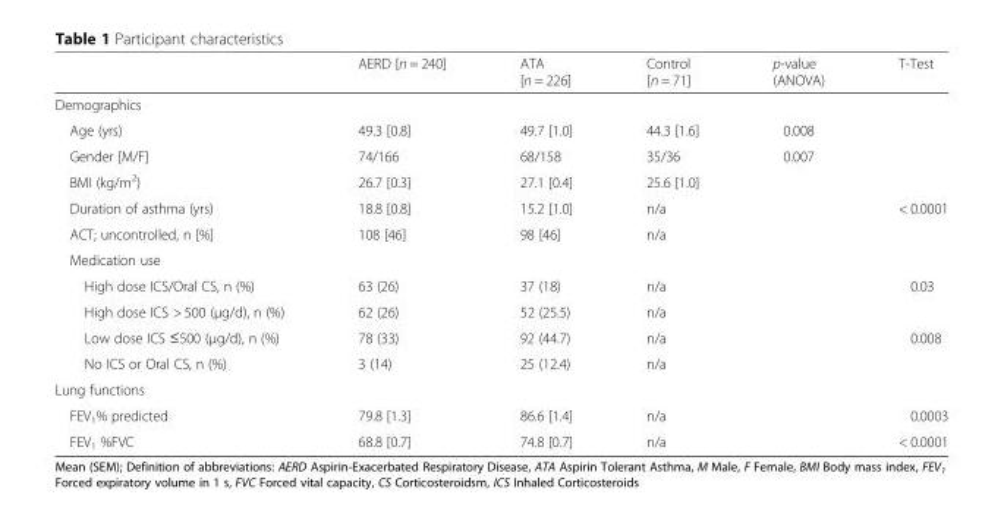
<table><thead><tr><td></td><td>AERD [n = 240]</td><td>ATA [n = 226]</td><td>Control [n = 71]</td><td>p-value (ANOVA)</td><td>T-Test</td></tr></thead><tbody><tr><td colspan="6">Demographics</td></tr><tr><td>Age (yrs)</td><td>49.3 [0.8]</td><td>49.7 [1.0]</td><td>44.3 [1.6]</td><td>0.008</td><td></td></tr><tr><td>Gender [M/F]</td><td>74/166</td><td>68/158</td><td>35/36</td><td>0.007</td><td></td></tr><tr><td>BMI (kg/m<sup>2</sup>)</td><td>26.7 [0.3]</td><td>27.1 [0.4]</td><td>25.6 [1.0]</td><td></td><td></td></tr><tr><td>Duration of asthma (yrs)</td><td>18.8 [0.8]</td><td>15.2 [1.0]</td><td>n/a</td><td></td><td>&lt; 0.0001</td></tr><tr><td>ACT; uncontrolled, n [%]</td><td>108 [46]</td><td>98 [46]</td><td>n/a</td><td></td><td></td></tr><tr><td colspan="6">Medication use</td></tr><tr><td>High dose ICS/Oral CS, n (%)</td><td>63 (26)</td><td>37 (18)</td><td>n/a</td><td></td><td>0.03</td></tr><tr><td>High dose ICS &gt; 500 (μg/d), n (%)</td><td>62 (26)</td><td>52 (25.5)</td><td>n/a</td><td></td><td></td></tr><tr><td>Low dose ICS ≤500 (μg/d), n (%)</td><td>78 (33)</td><td>92 (44.7)</td><td>n/a</td><td></td><td>0.008</td></tr><tr><td>No ICS or Oral CS, n (%)</td><td>3 (14)</td><td>25 (12.4)</td><td>n/a</td><td></td><td></td></tr><tr><td colspan="6">Lung functions</td></tr><tr><td>FEV<sub>1</sub>% predicted</td><td>79.8 [1.3]</td><td>86.6 [1.4]</td><td>n/a</td><td></td><td>0.0003</td></tr><tr><td>FEV<sub>1</sub> %FVC</td><td>68.8 [0.7]</td><td>74.8 [0.7]</td><td>n/a</td><td></td><td>&lt; 0.0001</td></tr></tbody></table>